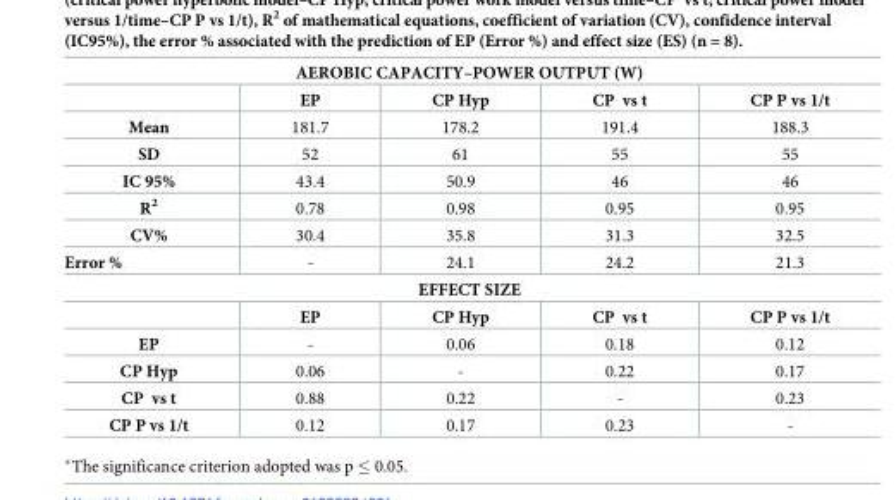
<table><tbody><tr><td colspan="5">AEROBIC CAPACITY–POWER OUTPUT (W)</td></tr><tr><td></td><td>EP</td><td>CP Hyp</td><td>CP vs t</td><td>CP P vs 1/t</td></tr><tr><td>Mean</td><td>181.7</td><td>178.2</td><td>191.4</td><td>188.3</td></tr><tr><td>SD</td><td>52</td><td>61</td><td>55</td><td>55</td></tr><tr><td>IC 95%</td><td>43.4</td><td>50.9</td><td>46</td><td>46</td></tr><tr><td>R<sup>2</sup></td><td>0.78</td><td>0.98</td><td>0.95</td><td>0.95</td></tr><tr><td>CV%</td><td>30.4</td><td>35.8</td><td>31.3</td><td>32.5</td></tr><tr><td>Error %</td><td>-</td><td>24.1</td><td>24.2</td><td>21.3</td></tr><tr><td colspan="5">EFFECT SIZE</td></tr><tr><td></td><td>EP</td><td>CP Hyp</td><td>CP vs t</td><td>CP P vs 1/t</td></tr><tr><td>EP</td><td>-</td><td>0.06</td><td>0.18</td><td>0.12</td></tr><tr><td>CP Hyp</td><td>0.06</td><td>-</td><td>0.22</td><td>0.17</td></tr><tr><td>CP vs t</td><td>0.88</td><td>0.22</td><td>-</td><td>0.23</td></tr><tr><td>CP P vs 1/t</td><td>0.12</td><td>0.17</td><td>0.23</td><td>-</td></tr></tbody></table>